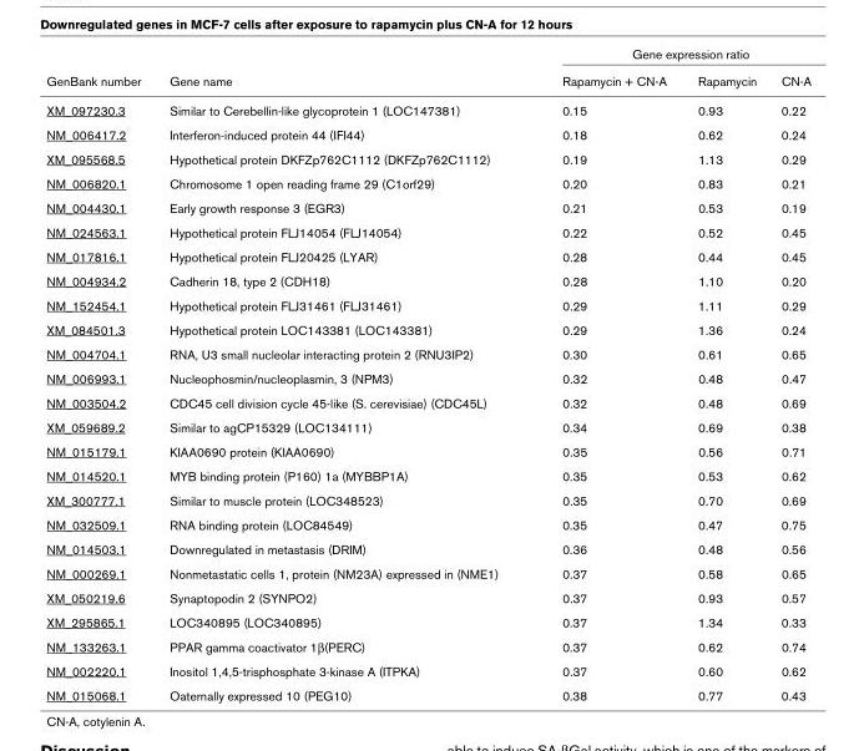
<table><thead><tr><td rowspan="2">GenBank number</td><td rowspan="2">Gene name</td><td colspan="3">Gene expression ratio</td></tr><tr><td>Rapamycin + CN-A</td><td>Rapamycin</td><td>CN-A</td></tr></thead><tbody><tr><td>XM_097230.3</td><td>Similar to Cerebellin-like glycoprotein 1 (LOC147381)</td><td>0.15</td><td>0.93</td><td>0.22</td></tr><tr><td>NM_006417.2</td><td>Interferon-induced protein 44 (IFI44)</td><td>0.18</td><td>0.62</td><td>0.24</td></tr><tr><td>XM_095568.5</td><td>Hypothetical protein DKFZp762C1112 (DKFZp762C1112)</td><td>0.19</td><td>1.13</td><td>0.29</td></tr><tr><td>NM_006820.1</td><td>Chromosome 1 open reading frame 29 (C1orf29)</td><td>0.20</td><td>0.83</td><td>0.21</td></tr><tr><td>NM_004430.1</td><td>Early growth response 3 (EGR3)</td><td>0.21</td><td>0.53</td><td>0.19</td></tr><tr><td>NM_024563.1</td><td>Hypothetical protein FLJ14054 (FLJ14054)</td><td>0.22</td><td>0.52</td><td>0.45</td></tr><tr><td>NM_017816.1</td><td>Hypothetical protein FLJ20425 (LYAR)</td><td>0.28</td><td>0.44</td><td>0.45</td></tr><tr><td>NM_004934.2</td><td>Cadherin 18, type 2 (CDH18)</td><td>0.28</td><td>1.10</td><td>0.20</td></tr><tr><td>NM_152454.1</td><td>Hypothetical protein FLJ31461 (FLJ31461)</td><td>0.29</td><td>1.11</td><td>0.29</td></tr><tr><td>XM_084501.3</td><td>Hypothetical protein LOC143381 (LOC143381)</td><td>0.29</td><td>1.36</td><td>0.24</td></tr><tr><td>NM_004704.1</td><td>RNA, U3 small nucleolar interacting protein 2 (RNU3IP2)</td><td>0.30</td><td>0.61</td><td>0.65</td></tr><tr><td>NM_006993.1</td><td>Nucleophosmin/nucleoplasmin, 3 (NPM3)</td><td>0.32</td><td>0.48</td><td>0.47</td></tr><tr><td>NM_003504.2</td><td>CDC45 cell division cycle 45-like (S. cerevisiae) (CDC45L)</td><td>0.32</td><td>0.48</td><td>0.69</td></tr><tr><td>XM_059689.2</td><td>Similar to agCP15329 (LOC134111)</td><td>0.34</td><td>0.69</td><td>0.38</td></tr><tr><td>NM_015179.1</td><td>KIAA0690 protein (KIAA0690)</td><td>0.35</td><td>0.56</td><td>0.71</td></tr><tr><td>NM_014520.1</td><td>MYB binding protein (P160) 1a (MYBBP1A)</td><td>0.35</td><td>0.53</td><td>0.62</td></tr><tr><td>XM_300777.1</td><td>Similar to muscle protein (LOC348523)</td><td>0.35</td><td>0.70</td><td>0.69</td></tr><tr><td>NM_032509.1</td><td>RNA binding protein (LOC84549)</td><td>0.35</td><td>0.47</td><td>0.75</td></tr><tr><td>NM_014503.1</td><td>Downregulated in metastasis (DRIM)</td><td>0.36</td><td>0.48</td><td>0.56</td></tr><tr><td>NM_000269.1</td><td>Nonmetastatic cells 1, protein (NM23A) expressed in (NME1)</td><td>0.37</td><td>0.58</td><td>0.65</td></tr><tr><td>XM_050219.6</td><td>Synaptopodin 2 (SYNPO2)</td><td>0.37</td><td>0.93</td><td>0.57</td></tr><tr><td>XM_295865.1</td><td>LOC340895 (LOC340895)</td><td>0.37</td><td>1.34</td><td>0.33</td></tr><tr><td>NM_133263.1</td><td>PPAR gamma coactivator 1β(PERC)</td><td>0.37</td><td>0.62</td><td>0.74</td></tr><tr><td>NM_002220.1</td><td>Inositol 1,4,5-trisphosphate 3-kinase A (ITPKA)</td><td>0.37</td><td>0.60</td><td>0.62</td></tr><tr><td>NM_015068.1</td><td>Oaternally expressed 10 (PEG10)</td><td>0.38</td><td>0.77</td><td>0.43</td></tr></tbody></table>